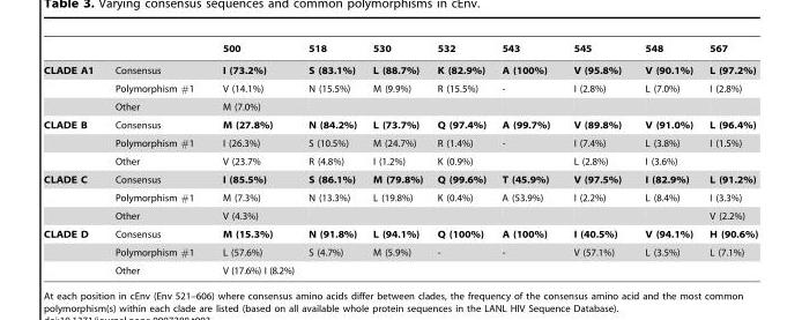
<table><thead><tr><td></td><td></td><td>500</td><td>518</td><td>530</td><td>532</td><td>543</td><td>545</td><td>548</td><td>567</td></tr></thead><tbody><tr><td rowspan="3">CLADE A1</td><td>Consensus</td><td>I (73.2%)</td><td>S (83.1%)</td><td>L (88.7%)</td><td>K (82.9%)</td><td>A (100%)</td><td>V (95.8%)</td><td>V (90.1%)</td><td>L (97.2%)</td></tr><tr><td>Polymorphism #1</td><td>V (14.1%)</td><td>N (15.5%)</td><td>M (9.9%)</td><td>R (15.5%)</td><td>-</td><td>I (2.8%)</td><td>L (7.0%)</td><td>I (2.8%)</td></tr><tr><td>Other</td><td>M (7.0%)</td><td></td><td></td><td></td><td></td><td></td><td></td><td></td></tr><tr><td rowspan="3">CLADE B</td><td>Consensus</td><td>M (27.8%)</td><td>N (84.2%)</td><td>L (73.7%)</td><td>Q (97.4%)</td><td>A (99.7%)</td><td>V (89.8%)</td><td>V (91.0%)</td><td>L (96.4%)</td></tr><tr><td>Polymorphism #1</td><td>I (26.3%)</td><td>S (10.5%)</td><td>M (24.7%)</td><td>R (1.4%)</td><td>-</td><td>I (7.4%)</td><td>L (3.8%)</td><td>I (1.5%)</td></tr><tr><td>Other</td><td>V (23.7%</td><td>R (4.8%)</td><td>I (1.2%)</td><td>K (0.9%)</td><td></td><td>L (2.8%)</td><td>I (3.6%)</td><td></td></tr><tr><td rowspan="3">CLADE C</td><td>Consensus</td><td>I (85.5%)</td><td>S (86.1%)</td><td>M (79.8%)</td><td>Q (99.6%)</td><td>T (45.9%)</td><td>V (97.5%)</td><td>I (82.9%)</td><td>L (91.2%)</td></tr><tr><td>Polymorphism #1</td><td>M (7.3%)</td><td>N (13.3%)</td><td>L (19.8%)</td><td>K (0.4%)</td><td>A (53.9%)</td><td>I (2.2%)</td><td>L (8.4%)</td><td>I (3.3%)</td></tr><tr><td>Other</td><td>V (4.3%)</td><td></td><td></td><td></td><td></td><td></td><td></td><td>V (2.2%)</td></tr><tr><td rowspan="3">CLADE D</td><td>Consensus</td><td>M (15.3%)</td><td>N (91.8%)</td><td>L (94.1%)</td><td>Q (100%)</td><td>A (100%)</td><td>I (40.5%)</td><td>V (94.1%)</td><td>H (90.6%)</td></tr><tr><td>Polymorphism #1</td><td>L (57.6%)</td><td>S (4.7%)</td><td>M (5.9%)</td><td>-</td><td>-</td><td>V (57.1%)</td><td>L (3.5%)</td><td>L (7.1%)</td></tr><tr><td>Other</td><td>V (17.6%) I (8.2%)</td><td></td><td></td><td></td><td></td><td></td><td></td><td></td></tr></tbody></table>